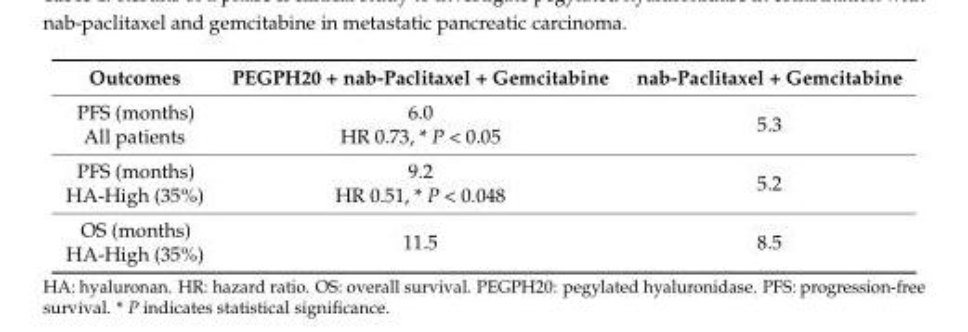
<table><thead><tr><td>Outcomes</td><td>PEGPH20 + nab-Paclitaxel + Gemcitabine</td><td>nab-Paclitaxel + Gemcitabine</td></tr></thead><tbody><tr><td>PFS (months) All patients</td><td>6.0 HR 0.73, * P &lt; 0.05</td><td>5.3</td></tr><tr><td>PFS (months) HA-High (35%)</td><td>9.2 HR 0.51, * P &lt; 0.048</td><td>5.2</td></tr><tr><td>OS (months) HA-High (35%)</td><td>11.5</td><td>8.5</td></tr></tbody></table>